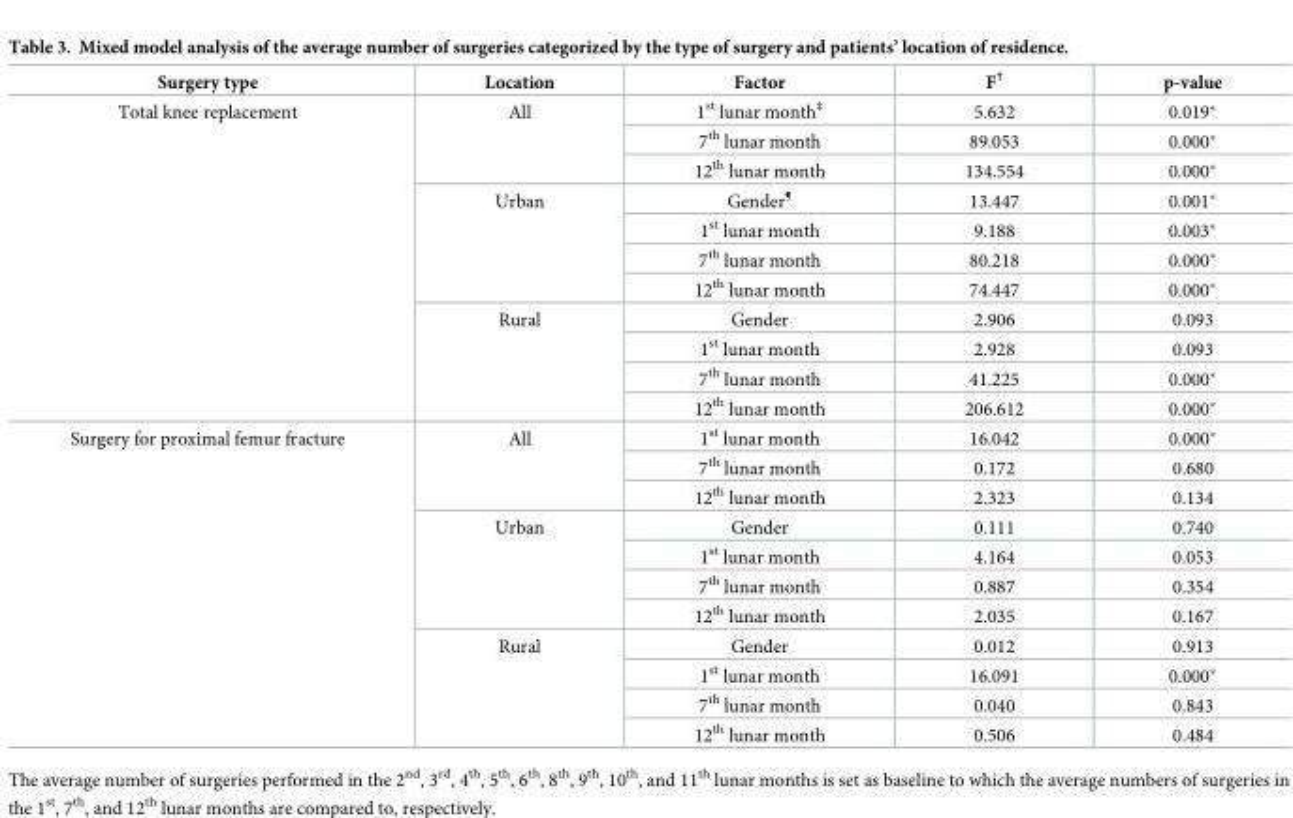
<table><thead><tr><td>Surgery type</td><td>Location</td><td>Factor</td><td>F<sup>†</sup></td><td>p-value</td></tr></thead><tbody><tr><td rowspan="11">Total knee replacement</td><td rowspan="3">All</td><td>1<sup>st</sup> lunar month<sup>‡</sup></td><td>5.632</td><td>0.019*</td></tr><tr><td>7<sup>th</sup> lunar month</td><td>89.053</td><td>0.000*</td></tr><tr><td>12<sup>th</sup> lunar month</td><td>134.554</td><td>0.000*</td></tr><tr><td rowspan="4">Urban</td><td>Gender<sup>¶</sup></td><td>13.447</td><td>0.001*</td></tr><tr><td>1<sup>st</sup> lunar month</td><td>9.188</td><td>0.003*</td></tr><tr><td>7<sup>th</sup> lunar month</td><td>80.218</td><td>0.000*</td></tr><tr><td>12<sup>th</sup> lunar month</td><td>74.447</td><td>0.000*</td></tr><tr><td rowspan="4">Rural</td><td>Gender</td><td>2.906</td><td>0.093</td></tr><tr><td>1<sup>st</sup> lunar month</td><td>2.928</td><td>0.093</td></tr><tr><td>7<sup>th</sup> lunar month</td><td>41.225</td><td>0.000*</td></tr><tr><td>12<sup>th</sup> lunar month</td><td>206.612</td><td>0.000*</td></tr><tr><td rowspan="11">Surgery for proximal femur fracture</td><td rowspan="3">All</td><td>1<sup>st</sup> lunar month</td><td>16.042</td><td>0.000*</td></tr><tr><td>7<sup>th</sup> lunar month</td><td>0.172</td><td>0.680</td></tr><tr><td>12<sup>th</sup> lunar month</td><td>2.323</td><td>0.134</td></tr><tr><td rowspan="4">Urban</td><td>Gender</td><td>0.111</td><td>0.740</td></tr><tr><td>1<sup>st</sup> lunar month</td><td>4.164</td><td>0.053</td></tr><tr><td>7<sup>th</sup> lunar month</td><td>0.887</td><td>0.354</td></tr><tr><td>12<sup>th</sup> lunar month</td><td>2.035</td><td>0.167</td></tr><tr><td rowspan="4">Rural</td><td>Gender</td><td>0.012</td><td>0.913</td></tr><tr><td>1<sup>st</sup> lunar month</td><td>16.091</td><td>0.000*</td></tr><tr><td>7<sup>th</sup> lunar month</td><td>0.040</td><td>0.843</td></tr><tr><td>12<sup>th</sup> lunar month</td><td>0.506</td><td>0.484</td></tr></tbody></table>